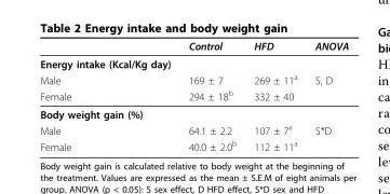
<table><thead><tr><td></td><td>Control</td><td>HFD</td><td>ANOVA</td></tr></thead><tbody><tr><td colspan="4">Energy intake (Kcal/Kg day)</td></tr><tr><td>Male</td><td>169 ± 7</td><td>269 ± 11<sup>a</sup></td><td>S, D</td></tr><tr><td>Female</td><td>294 ± 18<sup>b</sup></td><td>332 ± 40</td><td></td></tr><tr><td colspan="4">Body weight gain (%)</td></tr><tr><td>Male</td><td>64.1 ± 2.2</td><td>107 ± 7<sup>a</sup></td><td>S*D</td></tr><tr><td>Female</td><td>40.0 ± 2.0<sup>b</sup></td><td>112 ± 11<sup>a</sup></td><td></td></tr></tbody></table>